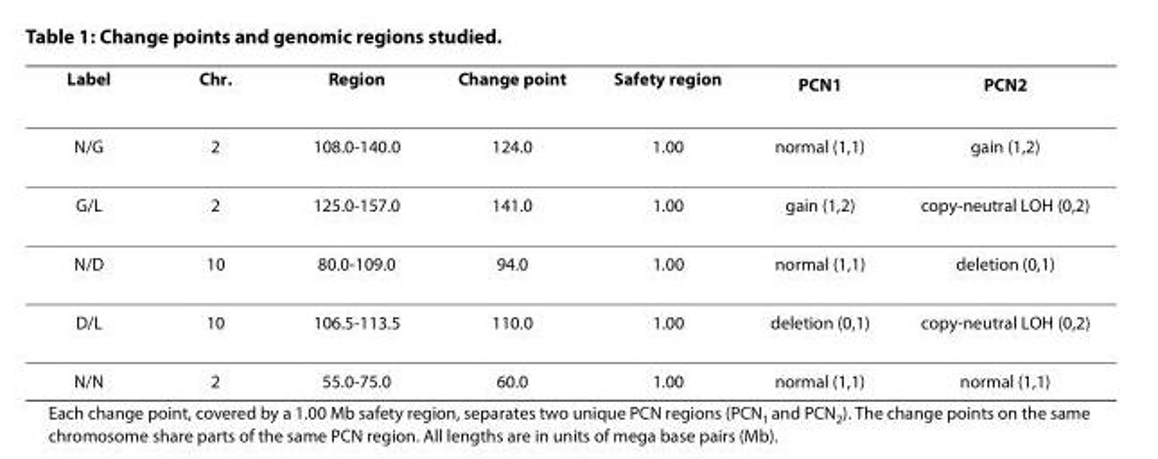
<table><thead><tr><td>Label</td><td>Chr.</td><td>Region</td><td>Change point</td><td>Safety region</td><td>PCN<sub>1</sub></td><td>PCN<sub>2</sub></td></tr></thead><tbody><tr><td>N/G</td><td>2</td><td>108.0-140.0</td><td>124.0</td><td>1.00</td><td>normal (1,1)</td><td>gain (1,2)</td></tr><tr><td>G/L</td><td>2</td><td>125.0-157.0</td><td>141.0</td><td>1.00</td><td>gain (1,2)</td><td>copy-neutral LOH (0,2)</td></tr><tr><td>N/D</td><td>10</td><td>80.0-109.0</td><td>94.0</td><td>1.00</td><td>normal (1,1)</td><td>deletion (0,1)</td></tr><tr><td>D/L</td><td>10</td><td>106.5-113.5</td><td>110.0</td><td>1.00</td><td>deletion (0,1)</td><td>copy-neutral LOH (0,2)</td></tr><tr><td>N/N</td><td>2</td><td>55.0-75.0</td><td>60.0</td><td>1.00</td><td>normal (1,1)</td><td>normal (1,1)</td></tr></tbody></table>